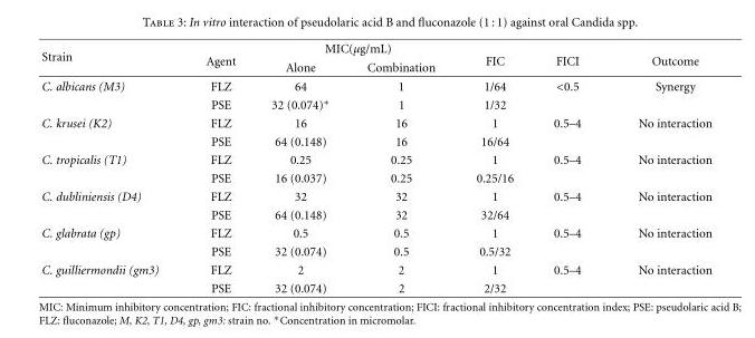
<table><thead><tr><td rowspan="2">Strain</td><td rowspan="2">Agent</td><td colspan="2">MIC(µg/mL)</td><td rowspan="2">FIC</td><td rowspan="2">FICI</td><td rowspan="2">Outcome</td></tr><tr><td>Alone</td><td>Combination</td></tr></thead><tbody><tr><td rowspan="2">C. albicans (M3)</td><td>FLZ</td><td>64</td><td>1</td><td>1/64</td><td>&lt;0.5</td><td>Synergy</td></tr><tr><td>PSE</td><td>32 (0.074)∗</td><td>1</td><td>1/32</td><td></td><td></td></tr><tr><td rowspan="2">C. krusei (K2)</td><td>FLZ</td><td>16</td><td>16</td><td>1</td><td>0.5–4</td><td>No interaction</td></tr><tr><td>PSE</td><td>64 (0.148)</td><td>16</td><td>16/64</td><td></td><td></td></tr><tr><td rowspan="2">C. tropicalis (T1)</td><td>FLZ</td><td>0.25</td><td>0.25</td><td>1</td><td>0.5–4</td><td>No interaction</td></tr><tr><td>PSE</td><td>16 (0.037)</td><td>0.25</td><td>0.25/16</td><td></td><td></td></tr><tr><td rowspan="2">C. dubliniensis (D4)</td><td>FLZ</td><td>32</td><td>32</td><td>1</td><td>0.5–4</td><td>No interaction</td></tr><tr><td>PSE</td><td>64 (0.148)</td><td>32</td><td>32/64</td><td></td><td></td></tr><tr><td rowspan="2">C. glabrata (gp)</td><td>FLZ</td><td>0.5</td><td>0.5</td><td>1</td><td>0.5–4</td><td>No interaction</td></tr><tr><td>PSE</td><td>32 (0.074)</td><td>0.5</td><td>0.5/32</td><td></td><td></td></tr><tr><td rowspan="2">C. guilliermondii (gm3)</td><td>FLZ</td><td>2</td><td>2</td><td>1</td><td>0.5–4</td><td>No interaction</td></tr><tr><td>PSE</td><td>32 (0.074)</td><td>2</td><td>2/32</td><td></td><td></td></tr></tbody></table>